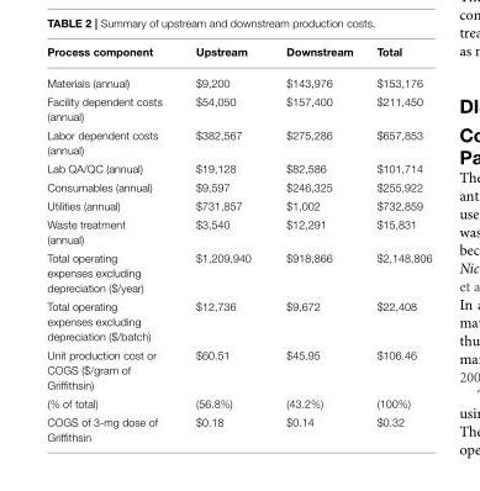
<table><thead><tr><td>Process component</td><td>Upstream</td><td>Downstream</td><td>Total</td></tr></thead><tbody><tr><td>Materials (annual)</td><td>$9,200</td><td>$143,976</td><td>$153,176</td></tr><tr><td>Facility dependent costs (annual)</td><td>$54,050</td><td>$157,400</td><td>$211,450</td></tr><tr><td>Labor dependent costs (annual)</td><td>$382,567</td><td>$275,286</td><td>$657,853</td></tr><tr><td>Lab QA/QC (annual)</td><td>$19,128</td><td>$82,586</td><td>$101,714</td></tr><tr><td>Consumables (annual)</td><td>$9,597</td><td>$246,325</td><td>$255,922</td></tr><tr><td>Utilities (annual)</td><td>$731,857</td><td>$1,002</td><td>$732,859</td></tr><tr><td>Waste treatment (annual)</td><td>$3,540</td><td>$12,291</td><td>$15,831</td></tr><tr><td>Total operating expenses excluding depreciation ($/year)</td><td>$1,209,940</td><td>$918,866</td><td>$2,148,806</td></tr><tr><td>Total operating expenses excluding depreciation ($/batch)</td><td>$12,736</td><td>$9,672</td><td>$22,408</td></tr><tr><td>Unit production cost or COGS ($/gram of Griffithsin)</td><td>$60.51</td><td>$45.95</td><td>$106.46</td></tr><tr><td>(% of total)</td><td>(56.8%)</td><td>(43.2%)</td><td>(100%)</td></tr><tr><td>COGS of 3-mg dose of Griffithsin</td><td>$0.18</td><td>$0.14</td><td>$0.32</td></tr></tbody></table>